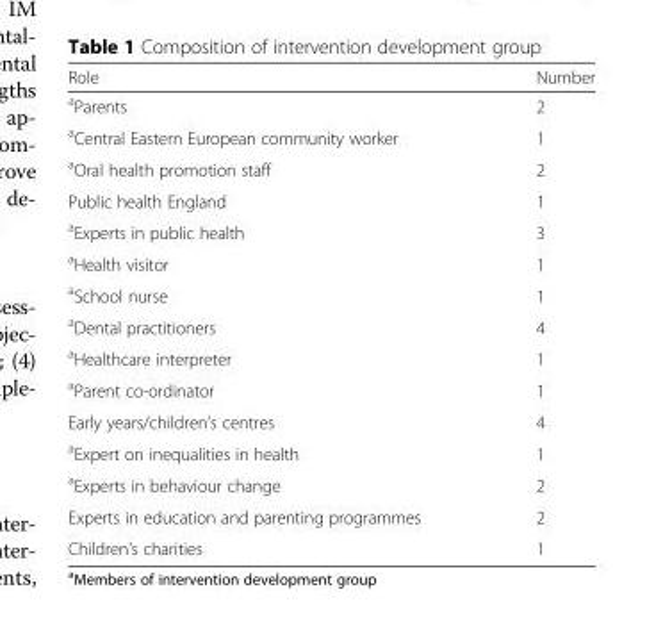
<table><thead><tr><td>Role</td><td>Number</td></tr></thead><tbody><tr><td><sup>a</sup>Parents</td><td>2</td></tr><tr><td><sup>a</sup>Central Eastern European community worker</td><td>1</td></tr><tr><td><sup>a</sup>Oral health promotion staff</td><td>2</td></tr><tr><td>Public health England</td><td>1</td></tr><tr><td><sup>a</sup>Experts in public health</td><td>3</td></tr><tr><td><sup>a</sup>Health visitor</td><td>1</td></tr><tr><td><sup>a</sup>School nurse</td><td>1</td></tr><tr><td><sup>a</sup>Dental practitioners</td><td>4</td></tr><tr><td><sup>a</sup>Healthcare interpreter</td><td>1</td></tr><tr><td><sup>a</sup>Parent co-ordinator</td><td>1</td></tr><tr><td>Early years/children’s centres</td><td>4</td></tr><tr><td><sup>a</sup>Expert on inequalities in health</td><td>1</td></tr><tr><td><sup>a</sup>Experts in behaviour change</td><td>2</td></tr><tr><td>Experts in education and parenting programmes</td><td>2</td></tr><tr><td>Children’s charities</td><td>1</td></tr></tbody></table>